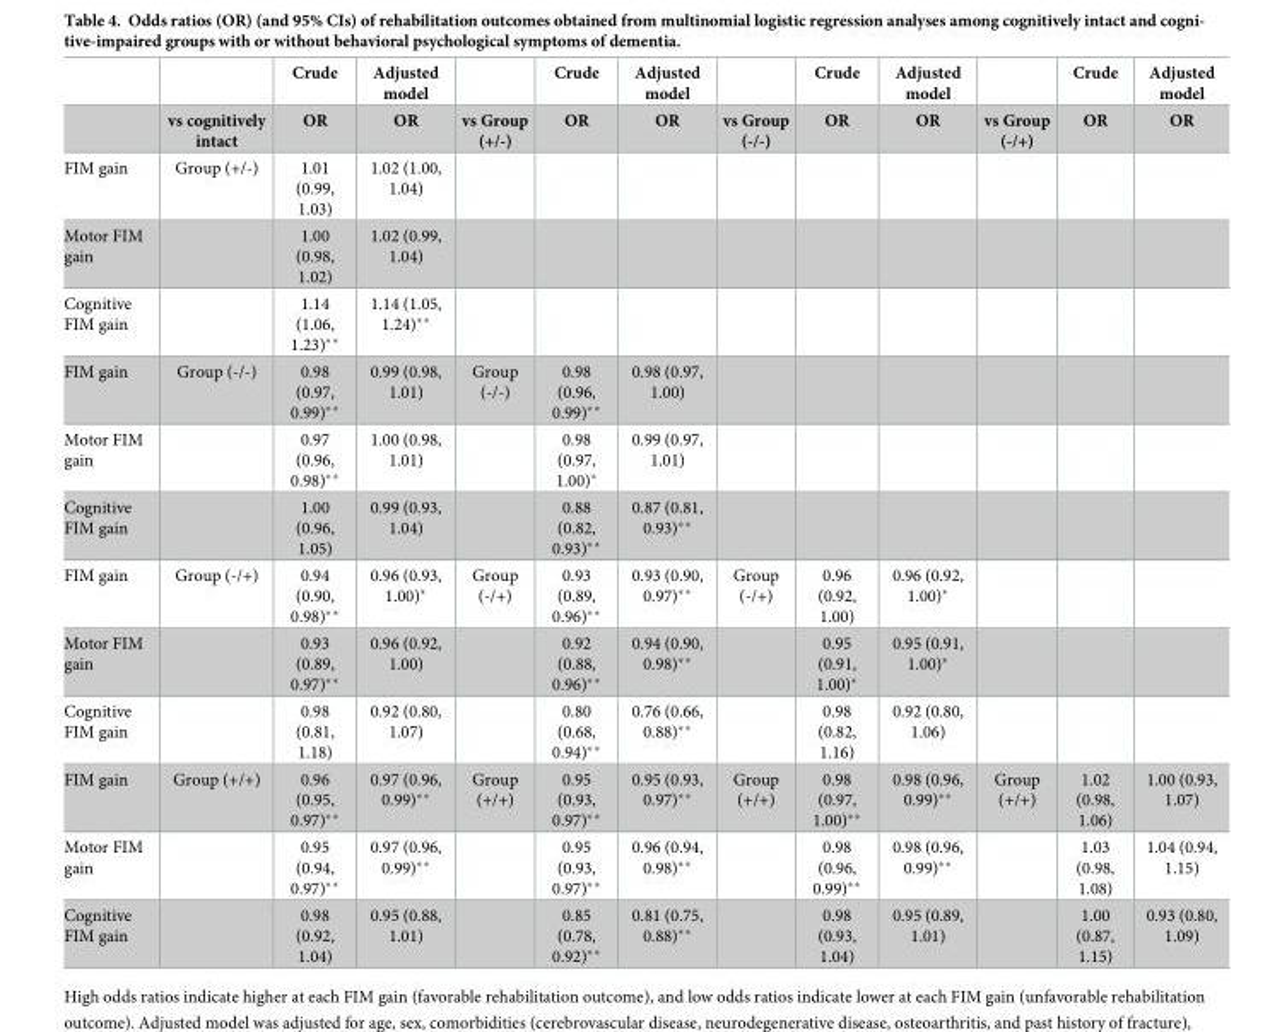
<table><thead><tr><td rowspan="2"></td><td rowspan="2">vs cognitively intact</td><td rowspan="2">Crude OR</td><td rowspan="2">Adjusted model OR</td><td rowspan="2">vs Group (+/-)</td><td rowspan="2">Crude OR</td><td rowspan="2">Adjusted model OR</td><td rowspan="2">vs Group (-/-)</td><td rowspan="2">Crude OR</td><td rowspan="2">Adjusted model OR</td><td rowspan="2">vs Group (-/+)</td><td rowspan="2">Crude OR</td><td rowspan="2">Adjusted model OR</td></tr><tr></tr></thead><tbody><tr><td>FIM gain</td><td>Group (+/-)</td><td>1.01 (0.99, 1.03)</td><td>1.02 (1.00, 1.04)</td><td></td><td></td><td></td><td></td><td></td><td></td><td></td><td></td><td></td></tr><tr><td>Motor FIM gain</td><td></td><td>1.00 (0.98, 1.02)</td><td>1.02 (0.99, 1.04)</td><td></td><td></td><td></td><td></td><td></td><td></td><td></td><td></td><td></td></tr><tr><td>Cognitive FIM gain</td><td></td><td>1.14 (1.06, 1.23)**</td><td>1.14 (1.05, 1.24)**</td><td></td><td></td><td></td><td></td><td></td><td></td><td></td><td></td><td></td></tr><tr><td>FIM gain</td><td>Group (-/-)</td><td>0.98 (0.97, 0.99)**</td><td>0.99 (0.98, 1.01)</td><td>Group (-/-)</td><td>0.98 (0.96, 0.99)**</td><td>0.98 (0.97, 1.00)</td><td></td><td></td><td></td><td></td><td></td><td></td></tr><tr><td>Motor FIM gain</td><td></td><td>0.97 (0.96, 0.98)**</td><td>1.00 (0.98, 1.01)</td><td></td><td>0.98 (0.97, 1.00)*</td><td>0.99 (0.97, 1.01)</td><td></td><td></td><td></td><td></td><td></td><td></td></tr><tr><td>Cognitive FIM gain</td><td></td><td>1.00 (0.96, 1.05)</td><td>0.99 (0.93, 1.04)</td><td></td><td>0.88 (0.82, 0.93)**</td><td>0.87 (0.81, 0.93)**</td><td></td><td></td><td></td><td></td><td></td><td></td></tr><tr><td>FIM gain</td><td>Group (-/+)</td><td>0.94 (0.90, 0.98)**</td><td>0.96 (0.93, 1.00)*</td><td>Group (-/+)</td><td>0.93 (0.89, 0.96)**</td><td>0.93 (0.90, 0.97)**</td><td>Group (-/+)</td><td>0.96 (0.92, 1.00)</td><td>0.96 (0.92, 1.00)*</td><td></td><td></td><td></td></tr><tr><td>Motor FIM gain</td><td></td><td>0.93 (0.89, 0.97)**</td><td>0.96 (0.92, 1.00)</td><td></td><td>0.92 (0.88, 0.96)**</td><td>0.94 (0.90, 0.98)**</td><td></td><td>0.95 (0.91, 1.00)*</td><td>0.95 (0.91, 1.00)*</td><td></td><td></td><td></td></tr><tr><td>Cognitive FIM gain</td><td></td><td>0.98 (0.81, 1.18)</td><td>0.92 (0.80, 1.07)</td><td></td><td>0.80 (0.68, 0.94)**</td><td>0.76 (0.66, 0.88)**</td><td></td><td>0.98 (0.82, 1.16)</td><td>0.92 (0.80, 1.06)</td><td></td><td></td><td></td></tr><tr><td>FIM gain</td><td>Group (+/+)</td><td>0.96 (0.95, 0.97)**</td><td>0.97 (0.96, 0.99)**</td><td>Group (+/+)</td><td>0.95 (0.93, 0.97)**</td><td>0.95 (0.93, 0.97)**</td><td>Group (+/+)</td><td>0.98 (0.97, 1.00)**</td><td>0.98 (0.96, 0.99)**</td><td>Group (+/+)</td><td>1.02 (0.98, 1.06)</td><td>1.00 (0.93, 1.07)</td></tr><tr><td>Motor FIM gain</td><td></td><td>0.95 (0.94, 0.97)**</td><td>0.97 (0.96, 0.99)**</td><td></td><td>0.95 (0.93, 0.97)**</td><td>0.96 (0.94, 0.98)**</td><td></td><td>0.98 (0.96, 0.99)**</td><td>0.98 (0.96, 0.99)**</td><td></td><td>1.03 (0.98, 1.08)</td><td>1.04 (0.94, 1.15)</td></tr><tr><td>Cognitive FIM gain</td><td></td><td>0.98 (0.92, 1.04)</td><td>0.95 (0.88, 1.01)</td><td></td><td>0.85 (0.78, 0.92)**</td><td>0.81 (0.75, 0.88)**</td><td></td><td>0.98 (0.93, 1.04)</td><td>0.95 (0.89, 1.01)</td><td></td><td>1.00 (0.87, 1.15)</td><td>0.93 (0.80, 1.09)</td></tr></tbody></table>